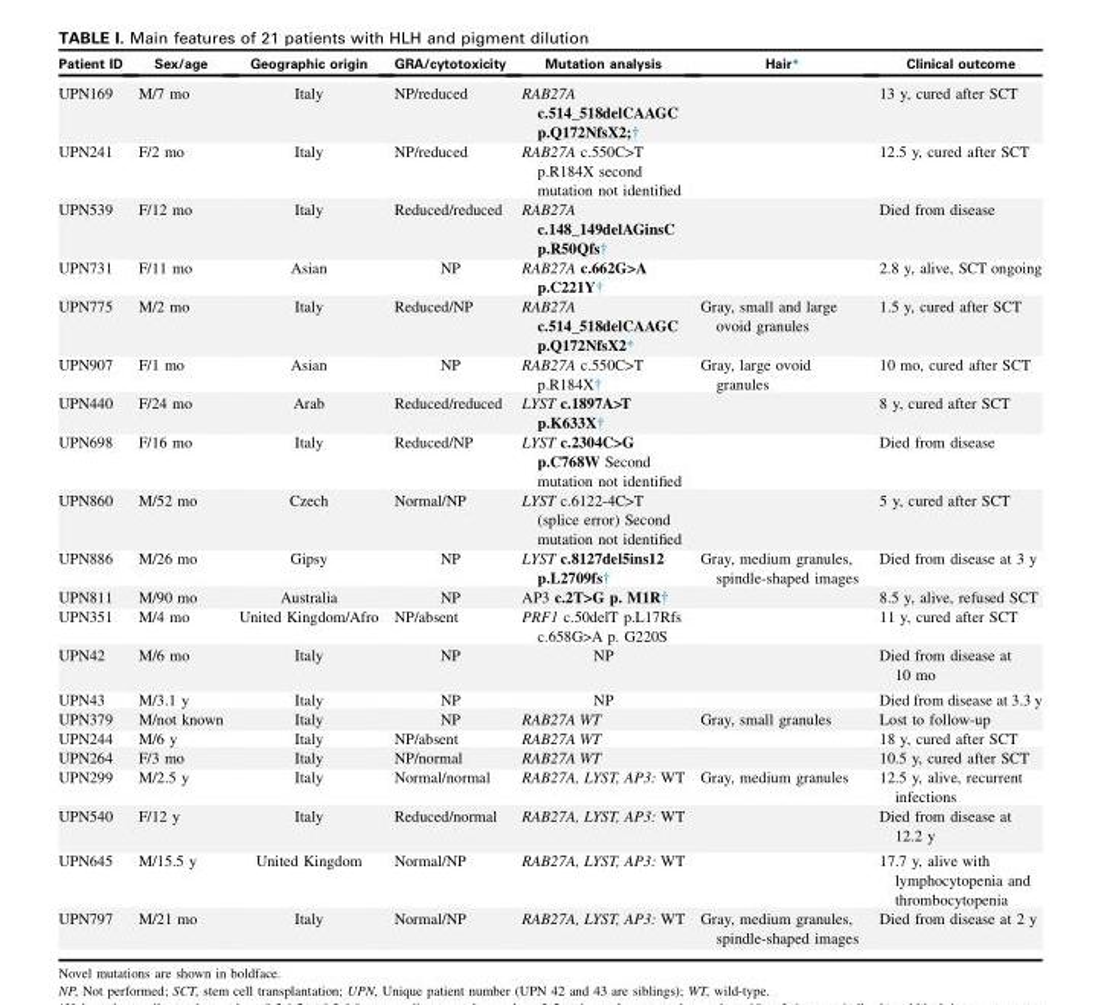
<table><thead><tr><td>Patient ID</td><td>Sex/age</td><td>Geographic origin</td><td>GRA/cytotoxicity</td><td>Mutation analysis</td><td>Hair*</td><td>Clinical outcome</td></tr></thead><tbody><tr><td>UPN169</td><td>M/7 mo</td><td>Italy</td><td>NP/reduced</td><td>RAB27A c.514_518delCAAGC p.Q172NfsX2;†</td><td></td><td>13 y, cured after SCT</td></tr><tr><td>UPN241</td><td>F/2 mo</td><td>Italy</td><td>NP/reduced</td><td>RAB27A c.550C&gt;T p.R184X second mutation not identified</td><td></td><td>12.5 y, cured after SCT</td></tr><tr><td>UPN539</td><td>F/12 mo</td><td>Italy</td><td>Reduced/reduced</td><td>RAB27A c.148_149delAGinsC p.R50Qfs†</td><td></td><td>Died from disease</td></tr><tr><td>UPN731</td><td>F/11 mo</td><td>Asian</td><td>NP</td><td>RAB27A c.662G&gt;A p.C221Y†</td><td></td><td>2.8 y, alive, SCT ongoing</td></tr><tr><td>UPN775</td><td>M/2 mo</td><td>Italy</td><td>Reduced/NP</td><td>RAB27A c.514_518delCAAGC p.Q172NfsX2*</td><td>Gray, small and large ovoid granules</td><td>1.5 y, cured after SCT</td></tr><tr><td>UPN907</td><td>F/1 mo</td><td>Asian</td><td>NP</td><td>RAB27A c.550C&gt;T p.R184X†</td><td>Gray, large ovoid granules</td><td>10 mo, cured after SCT</td></tr><tr><td>UPN440</td><td>F/24 mo</td><td>Arab</td><td>Reduced/reduced</td><td>LYST c.1897A&gt;T p.K633X†</td><td></td><td>8 y, cured after SCT</td></tr><tr><td>UPN698</td><td>F/16 mo</td><td>Italy</td><td>Reduced/NP</td><td>LYST c.2304C&gt;G p.C768W Second mutation not identified</td><td></td><td>Died from disease</td></tr><tr><td>UPN860</td><td>M/52 mo</td><td>Czech</td><td>Normal/NP</td><td>LYST c.6122-4C&gt;T (splice error) Second mutation not identified</td><td></td><td>5 y, cured after SCT</td></tr><tr><td>UPN886</td><td>M/26 mo</td><td>Gipsy</td><td>NP</td><td>LYST c.8127del5ins12 p.L2709fs†</td><td>Gray, medium granules, spindle-shaped images</td><td>Died from disease at 3 y</td></tr><tr><td>UPN811</td><td>M/90 mo</td><td>Australia</td><td>NP</td><td>AP3 c.2T&gt;G p. M1R†</td><td></td><td>8.5 y, alive, refused SCT</td></tr><tr><td>UPN351</td><td>M/4 mo</td><td>United Kingdom/Afro</td><td>NP/absent</td><td>PRF1 c.50delT p.L17Rfs c.658G&gt;A p. G220S</td><td></td><td>11 y, cured after SCT</td></tr><tr><td>UPN42</td><td>M/6 mo</td><td>Italy</td><td>NP</td><td>NP</td><td></td><td>Died from disease at 10 mo</td></tr><tr><td>UPN43</td><td>M/3.1 y</td><td>Italy</td><td>NP</td><td>NP</td><td></td><td>Died from disease at 3.3 y</td></tr><tr><td>UPN379</td><td>M/not known</td><td>Italy</td><td>NP</td><td>RAB27A WT</td><td>Gray, small granules</td><td>Lost to follow-up</td></tr><tr><td>UPN244</td><td>M/6 y</td><td>Italy</td><td>NP/absent</td><td>RAB27A WT</td><td></td><td>18 y, cured after SCT</td></tr><tr><td>UPN264</td><td>F/3 mo</td><td>Italy</td><td>NP/normal</td><td>RAB27A WT</td><td></td><td>10.5 y, cured after SCT</td></tr><tr><td>UPN299</td><td>M/2.5 y</td><td>Italy</td><td>Normal/normal</td><td>RAB27A, LYST, AP3: WT</td><td>Gray, medium granules</td><td>12.5 y, alive, recurrent infections</td></tr><tr><td>UPN540</td><td>F/12 y</td><td>Italy</td><td>Reduced/normal</td><td>RAB27A, LYST, AP3: WT</td><td></td><td>Died from disease at 12.2 y</td></tr><tr><td>UPN645</td><td>M/15.5 y</td><td>United Kingdom</td><td>Normal/NP</td><td>RAB27A, LYST, AP3: WT</td><td></td><td>17.7 y, alive with lymphocytopenia and thrombocytopenia</td></tr><tr><td>UPN797</td><td>M/21 mo</td><td>Italy</td><td>Normal/NP</td><td>RAB27A, LYST, AP3: WT</td><td>Gray, medium granules, spindle-shaped images</td><td>Died from disease at 2 y</td></tr></tbody></table>